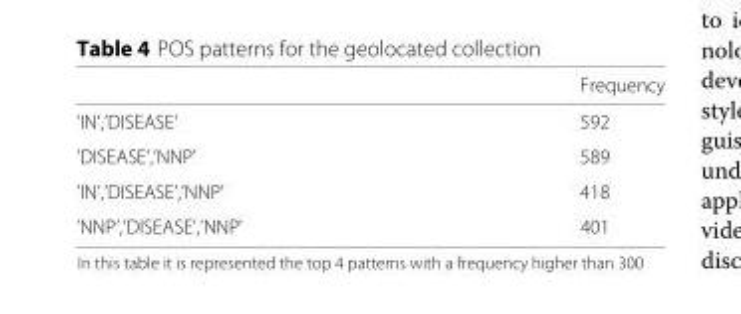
<table><thead><tr><td></td><td>Frequency</td></tr></thead><tbody><tr><td>’IN’,’DISEASE’</td><td>592</td></tr><tr><td>’DISEASE’,’NNP’</td><td>589</td></tr><tr><td>’IN’,’DISEASE’,’NNP’</td><td>418</td></tr><tr><td>’NNP’,’DISEASE’,’NNP’</td><td>401</td></tr></tbody></table>